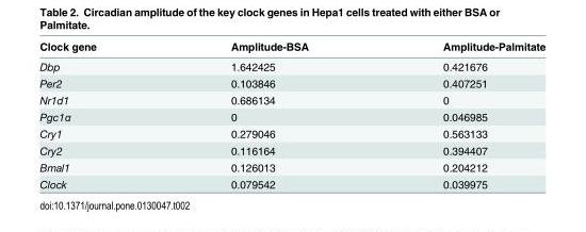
<table><thead><tr><td>Clock gene</td><td>Amplitude-BSA</td><td>Amplitude-Palmitate</td></tr></thead><tbody><tr><td>Dbp</td><td>1.642425</td><td>0.421676</td></tr><tr><td>Per2</td><td>0.103846</td><td>0.407251</td></tr><tr><td>Nr1d1</td><td>0.686134</td><td>0</td></tr><tr><td>Pgc1α</td><td>0</td><td>0.046985</td></tr><tr><td>Cry1</td><td>0.279046</td><td>0.563133</td></tr><tr><td>Cry2</td><td>0.116164</td><td>0.394407</td></tr><tr><td>Bmal1</td><td>0.126013</td><td>0.204212</td></tr><tr><td>Clock</td><td>0.079542</td><td>0.039975</td></tr></tbody></table>